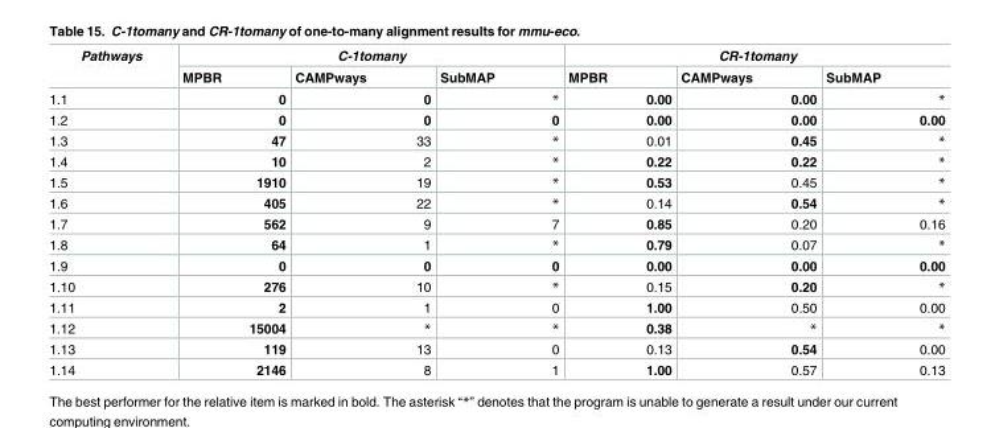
<table><thead><tr><td rowspan="2">Pathways</td><td colspan="3">C-1tomany</td><td colspan="3">CR-1tomany</td></tr><tr><td>MPBR</td><td>CAMPways</td><td>SubMAP</td><td>MPBR</td><td>CAMPways</td><td>SubMAP</td></tr></thead><tbody><tr><td>1.1</td><td>0</td><td>0</td><td>*</td><td>0.00</td><td>0.00</td><td>*</td></tr><tr><td>1.2</td><td>0</td><td>0</td><td>0</td><td>0.00</td><td>0.00</td><td>0.00</td></tr><tr><td>1.3</td><td>47</td><td>33</td><td>*</td><td>0.01</td><td>0.45</td><td>*</td></tr><tr><td>1.4</td><td>10</td><td>2</td><td>*</td><td>0.22</td><td>0.22</td><td>*</td></tr><tr><td>1.5</td><td>1910</td><td>19</td><td>*</td><td>0.53</td><td>0.45</td><td>*</td></tr><tr><td>1.6</td><td>405</td><td>22</td><td>*</td><td>0.14</td><td>0.54</td><td>*</td></tr><tr><td>1.7</td><td>562</td><td>9</td><td>7</td><td>0.85</td><td>0.20</td><td>0.16</td></tr><tr><td>1.8</td><td>64</td><td>1</td><td>*</td><td>0.79</td><td>0.07</td><td>*</td></tr><tr><td>1.9</td><td>0</td><td>0</td><td>0</td><td>0.00</td><td>0.00</td><td>0.00</td></tr><tr><td>1.10</td><td>276</td><td>10</td><td>*</td><td>0.15</td><td>0.20</td><td>*</td></tr><tr><td>1.11</td><td>2</td><td>1</td><td>0</td><td>1.00</td><td>0.50</td><td>0.00</td></tr><tr><td>1.12</td><td>15004</td><td>*</td><td>*</td><td>0.38</td><td>*</td><td>*</td></tr><tr><td>1.13</td><td>119</td><td>13</td><td>0</td><td>0.13</td><td>0.54</td><td>0.00</td></tr><tr><td>1.14</td><td>2146</td><td>8</td><td>1</td><td>1.00</td><td>0.57</td><td>0.13</td></tr></tbody></table>